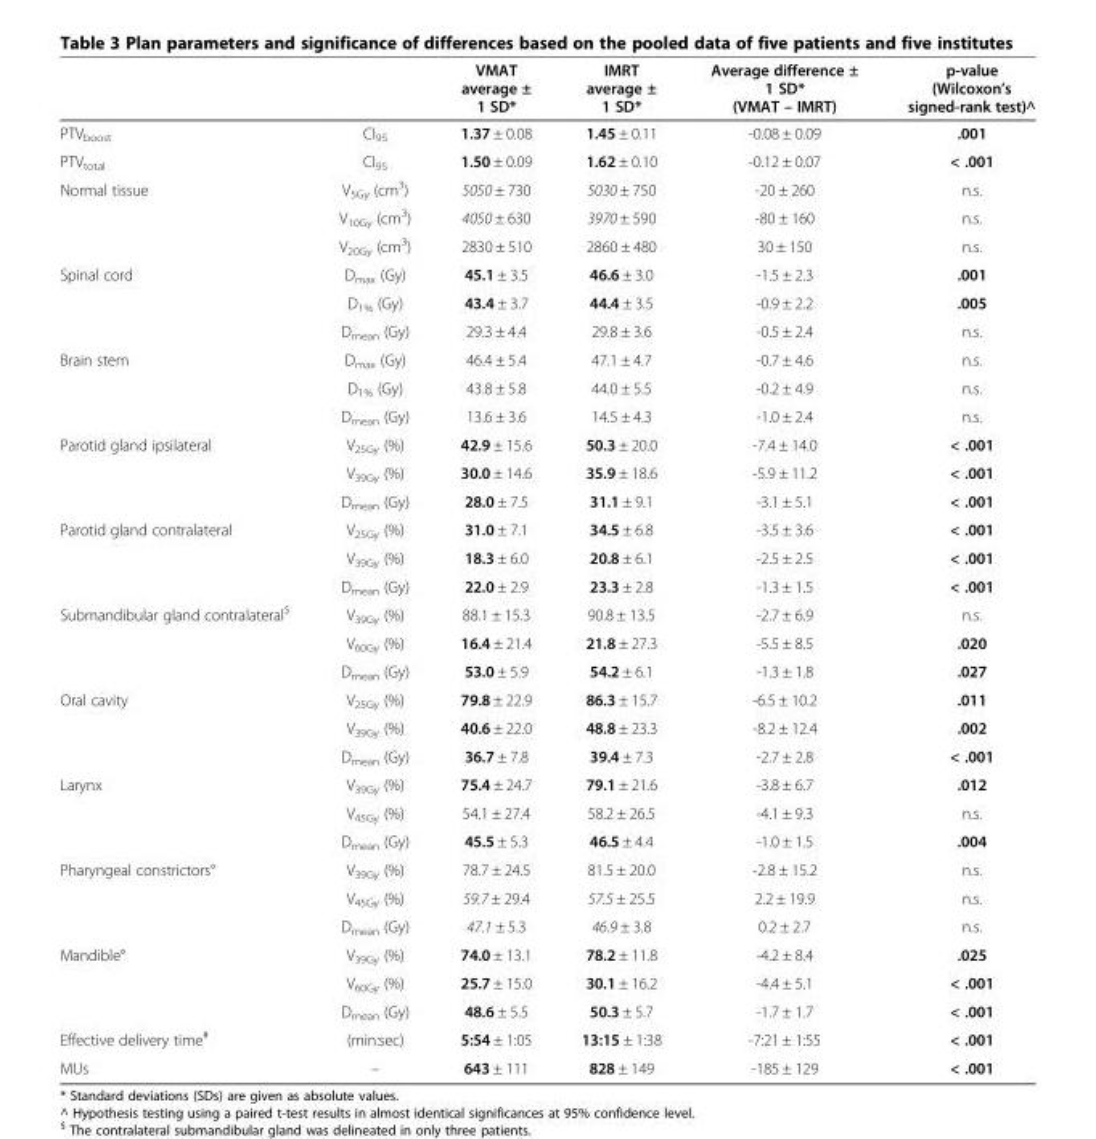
<table><thead><tr><td></td><td></td><td>VMAT average ± 1 SD*</td><td>IMRT average ± 1 SD*</td><td>Average difference ± 1 SD* (VMAT – IMRT)</td><td>p-value (Wilcoxon’s signed-rank test)^</td></tr></thead><tbody><tr><td>PTV<sub>boost</sub></td><td>CI<sub>95</sub></td><td>1.37 ± 0.08</td><td>1.45 ± 0.11</td><td>-0.08 ± 0.09</td><td>.001</td></tr><tr><td>PTV<sub>total</sub></td><td>CI<sub>95</sub></td><td>1.50 ± 0.09</td><td>1.62 ± 0.10</td><td>-0.12 ± 0.07</td><td>&lt; .001</td></tr><tr><td rowspan="3">Normal tissue</td><td>V<sub>5Gy</sub> (cm<sup>3</sup>)</td><td>5050 ± 730</td><td>5030 ± 750</td><td>-20 ± 260</td><td>n.s.</td></tr><tr><td>V<sub>10Gy</sub> (cm<sup>3</sup>)</td><td>4050 ± 630</td><td>3970 ± 590</td><td>-80 ± 160</td><td>n.s.</td></tr><tr><td>V<sub>20Gy</sub> (cm<sup>3</sup>)</td><td>2830 ± 510</td><td>2860 ± 480</td><td>30 ± 150</td><td>n.s.</td></tr><tr><td rowspan="3">Spinal cord</td><td>D<sub>max</sub> (Gy)</td><td>45.1 ± 3.5</td><td>46.6 ± 3.0</td><td>-1.5 ± 2.3</td><td>.001</td></tr><tr><td>D<sub>1%</sub> (Gy)</td><td>43.4 ± 3.7</td><td>44.4 ± 3.5</td><td>-0.9 ± 2.2</td><td>.005</td></tr><tr><td>D<sub>mean</sub> (Gy)</td><td>29.3 ± 4.4</td><td>29.8 ± 3.6</td><td>-0.5 ± 2.4</td><td>n.s.</td></tr><tr><td rowspan="3">Brain stem</td><td>D<sub>max</sub> (Gy)</td><td>46.4 ± 5.4</td><td>47.1 ± 4.7</td><td>-0.7 ± 4.6</td><td>n.s.</td></tr><tr><td>D<sub>1%</sub> (Gy)</td><td>43.8 ± 5.8</td><td>44.0 ± 5.5</td><td>-0.2 ± 4.9</td><td>n.s.</td></tr><tr><td>D<sub>mean</sub> (Gy)</td><td>13.6 ± 3.6</td><td>14.5 ± 4.3</td><td>-1.0 ± 2.4</td><td>n.s.</td></tr><tr><td rowspan="3">Parotid gland ipsilateral</td><td>V<sub>25Gy</sub> (%)</td><td>42.9 ± 15.6</td><td>50.3 ± 20.0</td><td>-7.4 ± 14.0</td><td>&lt; .001</td></tr><tr><td>V<sub>39Gy</sub> (%)</td><td>30.0 ± 14.6</td><td>35.9 ± 18.6</td><td>-5.9 ± 11.2</td><td>&lt; .001</td></tr><tr><td>D<sub>mean</sub> (Gy)</td><td>28.0 ± 7.5</td><td>31.1 ± 9.1</td><td>-3.1 ± 5.1</td><td>&lt; .001</td></tr><tr><td rowspan="3">Parotid gland contralateral</td><td>V<sub>25Gy</sub> (%)</td><td>31.0 ± 7.1</td><td>34.5 ± 6.8</td><td>-3.5 ± 3.6</td><td>&lt; .001</td></tr><tr><td>V<sub>39Gy</sub> (%)</td><td>18.3 ± 6.0</td><td>20.8 ± 6.1</td><td>-2.5 ± 2.5</td><td>&lt; .001</td></tr><tr><td>D<sub>mean</sub> (Gy)</td><td>22.0 ± 2.9</td><td>23.3 ± 2.8</td><td>-1.3 ± 1.5</td><td>&lt; .001</td></tr><tr><td rowspan="3">Submandibular gland contralateral<sup>$</sup></td><td>V<sub>39Gy</sub> (%)</td><td>88.1 ± 15.3</td><td>90.8 ± 13.5</td><td>-2.7 ± 6.9</td><td>n.s.</td></tr><tr><td>V<sub>60Gy</sub> (%)</td><td>16.4 ± 21.4</td><td>21.8 ± 27.3</td><td>-5.5 ± 8.5</td><td>.020</td></tr><tr><td>D<sub>mean</sub> (Gy)</td><td>53.0 ± 5.9</td><td>54.2 ± 6.1</td><td>-1.3 ± 1.8</td><td>.027</td></tr><tr><td rowspan="3">Oral cavity</td><td>V<sub>25Gy</sub> (%)</td><td>79.8 ± 22.9</td><td>86.3 ± 15.7</td><td>-6.5 ± 10.2</td><td>.011</td></tr><tr><td>V<sub>39Gy</sub> (%)</td><td>40.6 ± 22.0</td><td>48.8 ± 23.3</td><td>-8.2 ± 12.4</td><td>.002</td></tr><tr><td>D<sub>mean</sub> (Gy)</td><td>36.7 ± 7.8</td><td>39.4 ± 7.3</td><td>-2.7 ± 2.8</td><td>&lt; .001</td></tr><tr><td rowspan="3">Larynx</td><td>V<sub>39Gy</sub> (%)</td><td>75.4 ± 24.7</td><td>79.1 ± 21.6</td><td>-3.8 ± 6.7</td><td>.012</td></tr><tr><td>V<sub>45Gy</sub> (%)</td><td>54.1 ± 27.4</td><td>58.2 ± 26.5</td><td>-4.1 ± 9.3</td><td>n.s.</td></tr><tr><td>D<sub>mean</sub> (Gy)</td><td>45.5 ± 5.3</td><td>46.5 ± 4.4</td><td>-1.0 ± 1.5</td><td>.004</td></tr><tr><td rowspan="3">Pharyngeal constrictors°</td><td>V<sub>39Gy</sub> (%)</td><td>78.7 ± 24.5</td><td>81.5 ± 20.0</td><td>-2.8 ± 15.2</td><td>n.s.</td></tr><tr><td>V<sub>45Gy</sub> (%)</td><td>59.7 ± 29.4</td><td>57.5 ± 25.5</td><td>2.2 ± 19.9</td><td>n.s.</td></tr><tr><td>D<sub>mean</sub> (Gy)</td><td>47.1 ± 5.3</td><td>46.9 ± 3.8</td><td>0.2 ± 2.7</td><td>n.s.</td></tr><tr><td rowspan="3">Mandible°</td><td>V<sub>39Gy</sub> (%)</td><td>74.0 ± 13.1</td><td>78.2 ± 11.8</td><td>-4.2 ± 8.4</td><td>.025</td></tr><tr><td>V<sub>60Gy</sub> (%)</td><td>25.7 ± 15.0</td><td>30.1 ± 16.2</td><td>-4.4 ± 5.1</td><td>&lt; .001</td></tr><tr><td>D<sub>mean</sub> (Gy)</td><td>48.6 ± 5.5</td><td>50.3 ± 5.7</td><td>-1.7 ± 1.7</td><td>&lt; .001</td></tr><tr><td>Effective delivery time<sup>#</sup></td><td>(min:sec)</td><td>5:54 ± 1:05</td><td>13:15 ± 1:38</td><td>-7:21 ± 1:55</td><td>&lt; .001</td></tr><tr><td>MUs</td><td>–</td><td>643 ± 111</td><td>828 ± 149</td><td>-185 ± 129</td><td>&lt; .001</td></tr></tbody></table>